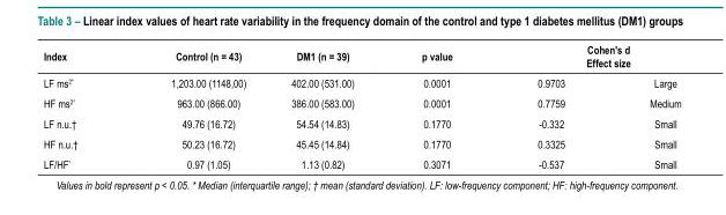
<table><thead><tr><td rowspan="2">Index LF ms<sup>2</sup>*</td><td rowspan="2">Control (n = 43) 1,203.00 (1148,00)</td><td rowspan="2">DM1 (n = 39) 402.00 (531.00)</td><td rowspan="2">p value 0.0001</td><td colspan="2">Cohen&#x27;s d Effect size</td></tr><tr><td>0.9703</td><td>Large</td></tr></thead><tbody><tr><td>HF ms<sup>2</sup>*</td><td>963.00 (866.00)</td><td>386.00 (583.00)</td><td>0.0001</td><td>0.7759</td><td>Medium</td></tr><tr><td>LF n.u.†</td><td>49.76 (16.72)</td><td>54.54 (14.83)</td><td>0.1770</td><td>-0.332</td><td>Small</td></tr><tr><td>HF n.u.†</td><td>50.23 (16.72)</td><td>45.45 (14.84)</td><td>0.1770</td><td>0.3325</td><td>Small</td></tr><tr><td>LF/HF*</td><td>0.97 (1.05)</td><td>1.13 (0.82)</td><td>0.3071</td><td>-0.537</td><td>Small</td></tr></tbody></table>